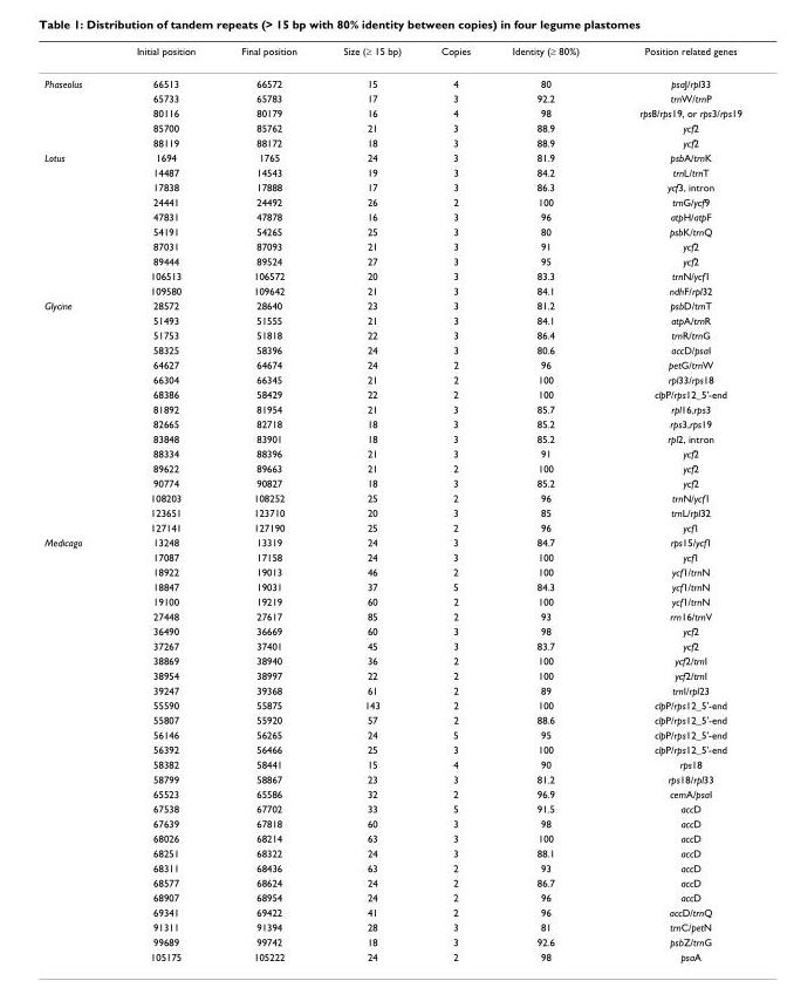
<table><thead><tr><td></td><td>Initial position</td><td>Final position</td><td>Size (≥ 15 bp)</td><td>Copies</td><td>Identity (≥ 80%)</td><td>Position related genes</td></tr></thead><tbody><tr><td rowspan="5">Phaseolus</td><td>66513</td><td>66572</td><td>15</td><td>4</td><td>80</td><td>psaJ/rpl33</td></tr><tr><td>65733</td><td>65783</td><td>17</td><td>3</td><td>92.2</td><td>trnW/trnP</td></tr><tr><td>80116</td><td>80179</td><td>16</td><td>4</td><td>98</td><td>rps8/rps19, or rps3/rps19</td></tr><tr><td>85700</td><td>85762</td><td>21</td><td>3</td><td>88.9</td><td>ycf2</td></tr><tr><td>88119</td><td>88172</td><td>18</td><td>3</td><td>88.9</td><td>ycf2</td></tr><tr><td rowspan="10">Lotus</td><td>1694</td><td>1765</td><td>24</td><td>3</td><td>81.9</td><td>psbA/trnK</td></tr><tr><td>14487</td><td>14543</td><td>19</td><td>3</td><td>84.2</td><td>trnL/trnT</td></tr><tr><td>17838</td><td>17888</td><td>17</td><td>3</td><td>86.3</td><td>ycf3, intron</td></tr><tr><td>24441</td><td>24492</td><td>26</td><td>2</td><td>100</td><td>trnG/ycf9</td></tr><tr><td>47831</td><td>47878</td><td>16</td><td>3</td><td>96</td><td>atpH/atpF</td></tr><tr><td>54191</td><td>54265</td><td>25</td><td>3</td><td>80</td><td>psbK/trnQ</td></tr><tr><td>87031</td><td>87093</td><td>21</td><td>3</td><td>91</td><td>ycf2</td></tr><tr><td>89444</td><td>89524</td><td>27</td><td>3</td><td>95</td><td>ycf2</td></tr><tr><td>106513</td><td>106572</td><td>20</td><td>3</td><td>83.3</td><td>trnN/ycf1</td></tr><tr><td>109580</td><td>109642</td><td>21</td><td>3</td><td>84.1</td><td>ndhF/rpl32</td></tr><tr><td rowspan="16">Glycine</td><td>28572</td><td>28640</td><td>23</td><td>3</td><td>81.2</td><td>psbD/trnT</td></tr><tr><td>51493</td><td>51555</td><td>21</td><td>3</td><td>84.1</td><td>atpA/trnR</td></tr><tr><td>51753</td><td>51818</td><td>22</td><td>3</td><td>86.4</td><td>trnR/trnG</td></tr><tr><td>58325</td><td>58396</td><td>24</td><td>3</td><td>80.6</td><td>accD/psaI</td></tr><tr><td>64627</td><td>64674</td><td>24</td><td>2</td><td>96</td><td>petG/trnW</td></tr><tr><td>66304</td><td>66345</td><td>21</td><td>2</td><td>100</td><td>rpl33/rps18</td></tr><tr><td>68386</td><td>58429</td><td>22</td><td>2</td><td>100</td><td>clpP/rps12_5&#x27;-end</td></tr><tr><td>81892</td><td>81954</td><td>21</td><td>3</td><td>85.7</td><td>rpl16,rps3</td></tr><tr><td>82665</td><td>82718</td><td>18</td><td>3</td><td>85.2</td><td>rps3,rps19</td></tr><tr><td>83848</td><td>83901</td><td>18</td><td>3</td><td>85.2</td><td>rpl2, intron</td></tr><tr><td>88334</td><td>88396</td><td>21</td><td>3</td><td>91</td><td>ycf2</td></tr><tr><td>89622</td><td>89663</td><td>21</td><td>2</td><td>100</td><td>ycf2</td></tr><tr><td>90774</td><td>90827</td><td>18</td><td>3</td><td>85.2</td><td>ycf2</td></tr><tr><td>108203</td><td>108252</td><td>25</td><td>2</td><td>96</td><td>trnN/ycf1</td></tr><tr><td>123651</td><td>123710</td><td>20</td><td>3</td><td>85</td><td>trnL/rpl32</td></tr><tr><td>127141</td><td>127190</td><td>25</td><td>2</td><td>96</td><td>ycf1</td></tr><tr><td rowspan="29">Medicago</td><td>13248</td><td>13319</td><td>24</td><td>3</td><td>84.7</td><td>rps15/ycf1</td></tr><tr><td>17087</td><td>17158</td><td>24</td><td>3</td><td>100</td><td>ycf1</td></tr><tr><td>18922</td><td>19013</td><td>46</td><td>2</td><td>100</td><td>ycf1/trnN</td></tr><tr><td>18847</td><td>19031</td><td>37</td><td>5</td><td>84.3</td><td>ycf1/trnN</td></tr><tr><td>19100</td><td>19219</td><td>60</td><td>2</td><td>100</td><td>ycf1/trnN</td></tr><tr><td>27448</td><td>27617</td><td>85</td><td>2</td><td>93</td><td>rrn16/trnV</td></tr><tr><td>36490</td><td>36669</td><td>60</td><td>3</td><td>98</td><td>ycf2</td></tr><tr><td>37267</td><td>37401</td><td>45</td><td>3</td><td>83.7</td><td>ycf2</td></tr><tr><td>38869</td><td>38940</td><td>36</td><td>2</td><td>100</td><td>ycf2/trnI</td></tr><tr><td>38954</td><td>38997</td><td>22</td><td>2</td><td>100</td><td>ycf2/trnI</td></tr><tr><td>39247</td><td>39368</td><td>61</td><td>2</td><td>89</td><td>trnI/rpl23</td></tr><tr><td>55590</td><td>55875</td><td>143</td><td>2</td><td>100</td><td>clpP/rps12_5&#x27;-end</td></tr><tr><td>55807</td><td>55920</td><td>57</td><td>2</td><td>88.6</td><td>clpP/rps12_5&#x27;-end</td></tr><tr><td>56146</td><td>56265</td><td>24</td><td>5</td><td>95</td><td>clpP/rps12_5&#x27;-end</td></tr><tr><td>56392</td><td>56466</td><td>25</td><td>3</td><td>100</td><td>clpP/rps12_5&#x27;-end</td></tr><tr><td>58382</td><td>58441</td><td>15</td><td>4</td><td>90</td><td>rps18</td></tr><tr><td>58799</td><td>58867</td><td>23</td><td>3</td><td>81.2</td><td>rps18/rpl33</td></tr><tr><td>65523</td><td>65586</td><td>32</td><td>2</td><td>96.9</td><td>cemA/psaI</td></tr><tr><td>67538</td><td>67702</td><td>33</td><td>5</td><td>91.5</td><td>accD</td></tr><tr><td>67639</td><td>67818</td><td>60</td><td>3</td><td>98</td><td>accD</td></tr><tr><td>68026</td><td>68214</td><td>63</td><td>3</td><td>100</td><td>accD</td></tr><tr><td>68251</td><td>68322</td><td>24</td><td>3</td><td>88.1</td><td>accD</td></tr><tr><td>68311</td><td>68436</td><td>63</td><td>2</td><td>93</td><td>accD</td></tr><tr><td>68577</td><td>68624</td><td>24</td><td>2</td><td>86.7</td><td>accD</td></tr><tr><td>68907</td><td>68954</td><td>24</td><td>2</td><td>96</td><td>accD</td></tr><tr><td>69341</td><td>69422</td><td>41</td><td>2</td><td>96</td><td>accD/trnQ</td></tr><tr><td>91311</td><td>91394</td><td>28</td><td>3</td><td>81</td><td>trnC/petN</td></tr><tr><td>99689</td><td>99742</td><td>18</td><td>3</td><td>92.6</td><td>psbZ/trnG</td></tr><tr><td>105175</td><td>105222</td><td>24</td><td>2</td><td>98</td><td>psaA</td></tr></tbody></table>